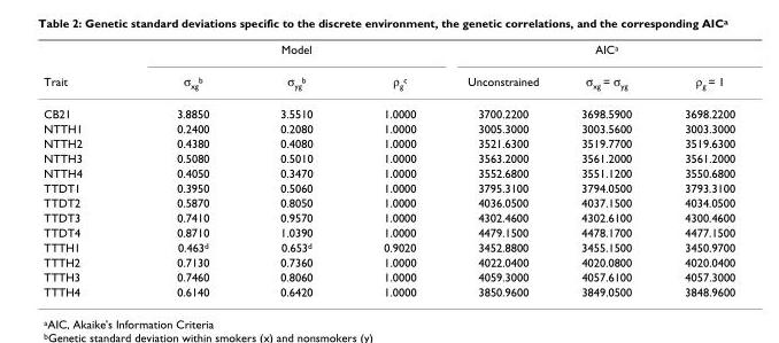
<table><thead><tr><td rowspan="2">Trait</td><td colspan="3">Model</td><td colspan="3">AICa</td></tr><tr><td>σxgb</td><td>σygb</td><td>ρgc</td><td>Unconstrained</td><td>σxg = σyg</td><td>ρg = 1</td></tr></thead><tbody><tr><td>CB21</td><td>3.8850</td><td>3.5510</td><td>1.0000</td><td>3700.2200</td><td>3698.5900</td><td>3698.2200</td></tr><tr><td>NTTH1</td><td>0.2400</td><td>0.2080</td><td>1.0000</td><td>3005.3000</td><td>3003.5600</td><td>3003.3000</td></tr><tr><td>NTTH2</td><td>0.4380</td><td>0.4080</td><td>1.0000</td><td>3521.6300</td><td>3519.7700</td><td>3519.6300</td></tr><tr><td>NTTH3</td><td>0.5080</td><td>0.5010</td><td>1.0000</td><td>3563.2000</td><td>3561.2000</td><td>3561.2000</td></tr><tr><td>NTTH4</td><td>0.4050</td><td>0.3470</td><td>1.0000</td><td>3552.6800</td><td>3551.1200</td><td>3550.6800</td></tr><tr><td>TTDT1</td><td>0.3950</td><td>0.5060</td><td>1.0000</td><td>3795.3100</td><td>3794.0500</td><td>3793.3100</td></tr><tr><td>TTDT2</td><td>0.5870</td><td>0.8050</td><td>1.0000</td><td>4036.0500</td><td>4037.1500</td><td>4034.0500</td></tr><tr><td>TTDT3</td><td>0.7410</td><td>0.9570</td><td>1.0000</td><td>4302.4600</td><td>4302.6100</td><td>4300.4600</td></tr><tr><td>TTDT4</td><td>0.8710</td><td>1.0390</td><td>1.0000</td><td>4479.1500</td><td>4478.1700</td><td>4477.1500</td></tr><tr><td>TTTH1</td><td>0.463d</td><td>0.653d</td><td>0.9020</td><td>3452.8800</td><td>3455.1500</td><td>3450.9700</td></tr><tr><td>TTTH2</td><td>0.7130</td><td>0.7360</td><td>1.0000</td><td>4022.0400</td><td>4020.0800</td><td>4020.0400</td></tr><tr><td>TTTH3</td><td>0.7460</td><td>0.8060</td><td>1.0000</td><td>4059.3000</td><td>4057.6100</td><td>4057.3000</td></tr><tr><td>TTTH4</td><td>0.6140</td><td>0.6420</td><td>1.0000</td><td>3850.9600</td><td>3849.0500</td><td>3848.9600</td></tr></tbody></table>